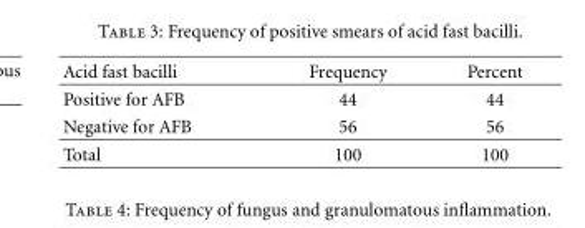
<table><thead><tr><td>Acid fast bacilli</td><td>Frequency</td><td>Percent</td></tr></thead><tbody><tr><td>Positive for AFB</td><td>44</td><td>44</td></tr><tr><td>Negative for AFB</td><td>56</td><td>56</td></tr><tr><td>Total</td><td>100</td><td>100</td></tr></tbody></table>